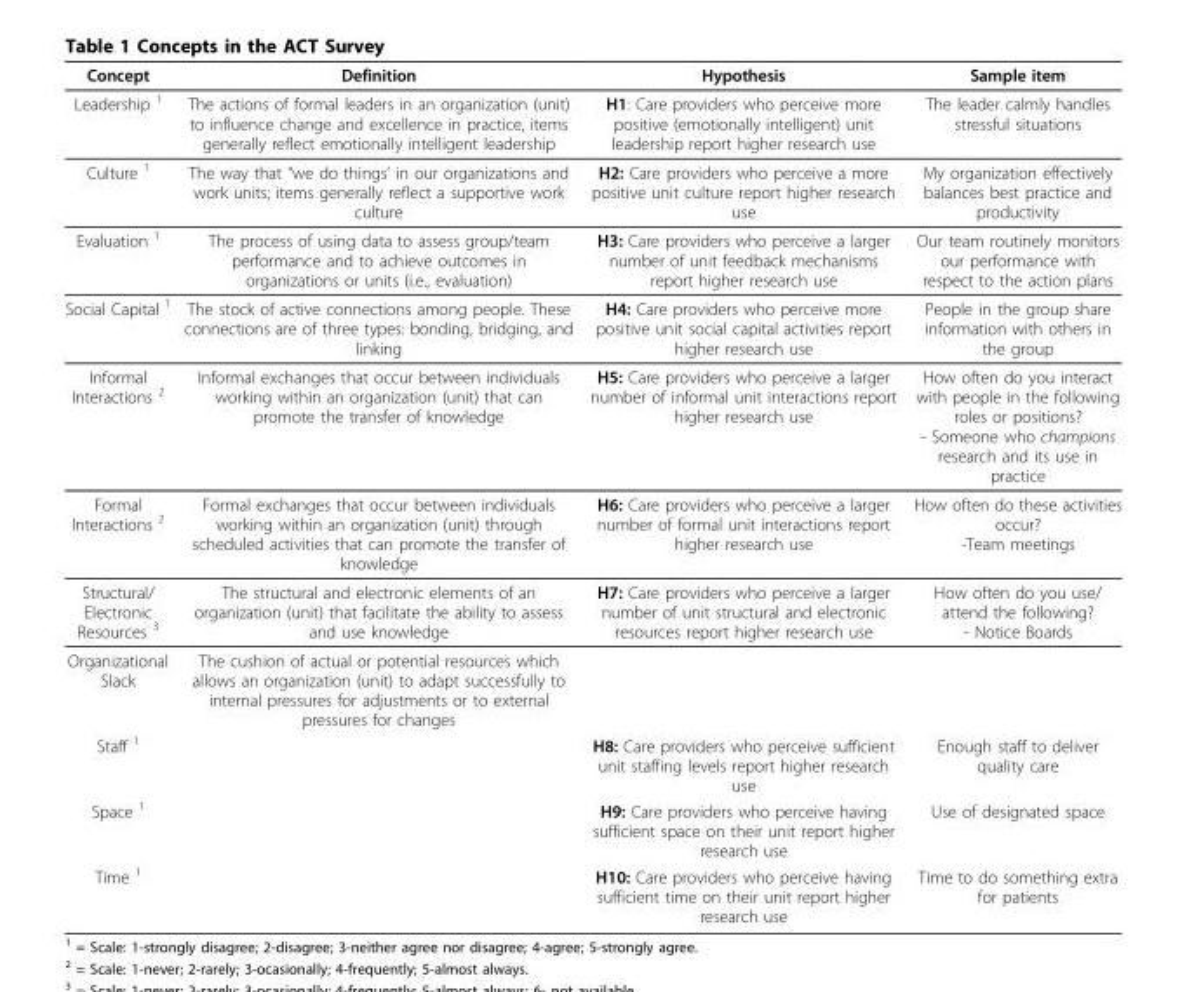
<table><thead><tr><td>Concept</td><td>Definition</td><td>Hypothesis</td><td>Sample item</td></tr></thead><tbody><tr><td>Leadership 1</td><td>The actions of formal leaders in an organization (unit) to influence change and excellence in practice, items generally reflect emotionally intelligent leadership</td><td>H1: Care providers who perceive more positive (emotionally intelligent) unit leadership report higher research use</td><td>The leader calmly handles stressful situations</td></tr><tr><td>Culture 1</td><td>The way that “we do things’ in our organizations and work units; items generally reflect a supportive work culture</td><td>H2: Care providers who perceive a more positive unit culture report higher research use</td><td>My organization effectively balances best practice and productivity</td></tr><tr><td>Evaluation <sup>1</sup></td><td>The process of using data to assess group/team performance and to achieve outcomes in organizations or units (i.e., evaluation)</td><td>H3: Care providers who perceive a larger number of unit feedback mechanisms report higher research use</td><td>Our team routinely monitors our performance with respect to the action plans</td></tr><tr><td>Social Capital <sup>1</sup></td><td>The stock of active connections among people. These connections are of three types: bonding, bridging, and linking</td><td>H4: Care providers who perceive more positive unit social capital activities report higher research use</td><td>People in the group share information with others in the group</td></tr><tr><td>Informal Interactions <sup>2</sup></td><td>Informal exchanges that occur between individuals working within an organization (unit) that can promote the transfer of knowledge</td><td>H5: Care providers who perceive a larger number of informal unit interactions report higher research use</td><td>How often do you interact with people in the following roles or positions? - Someone who champions research and its use in practice</td></tr><tr><td>Formal Interactions <sup>2</sup></td><td>Formal exchanges that occur between individuals working within an organization (unit) through scheduled activities that can promote the transfer of knowledge</td><td>H6: Care providers who perceive a larger number of formal unit interactions report higher research use</td><td>How often do these activities occur? -Team meetings</td></tr><tr><td>Structural/ Electronic Resources <sup>3</sup></td><td>The structural and electronic elements of an organization (unit) that facilitate the ability to assess and use knowledge</td><td>H7: Care providers who perceive a larger number of unit structural and electronic resources report higher research use</td><td>How often do you use/ attend the following? - Notice Boards</td></tr><tr><td>Organizational Slack</td><td>The cushion of actual or potential resources which allows an organization (unit) to adapt successfully to internal pressures for adjustments or to external pressures for changes</td><td></td><td></td></tr><tr><td>Staff <sup>1</sup></td><td></td><td>H8: Care providers who perceive sufficient unit staffing levels report higher research use</td><td>Enough staff to deliver quality care</td></tr><tr><td>Space <sup>1</sup></td><td></td><td>H9: Care providers who perceive having sufficient space on their unit report higher research use</td><td>Use of designated space</td></tr><tr><td>Time <sup>1</sup></td><td></td><td>H10: Care providers who perceive having sufficient time on their unit report higher research use</td><td>Time to do something extra for patients</td></tr></tbody></table>